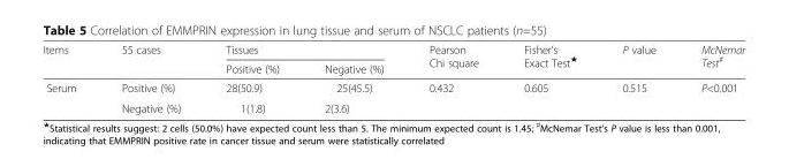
<table><thead><tr><td rowspan="2">Items</td><td rowspan="2">55 cases</td><td colspan="2">Tissues</td><td rowspan="2">Pearson Chi square</td><td rowspan="2">Fisher’s Exact Test<sup>★</sup></td><td rowspan="2">P value</td><td rowspan="2">McNemar Test<sup>#</sup></td></tr><tr><td>Positive (%)</td><td>Negative (%)</td></tr></thead><tbody><tr><td rowspan="2">Serum</td><td>Positive (%)</td><td>28(50.9)</td><td>25(45.5)</td><td rowspan="2">0.432</td><td rowspan="2">0.605</td><td rowspan="2">0.515</td><td rowspan="2">P&lt;0.001</td></tr><tr><td>Negative (%)</td><td>1(1.8)</td><td>2(3.6)</td></tr></tbody></table>